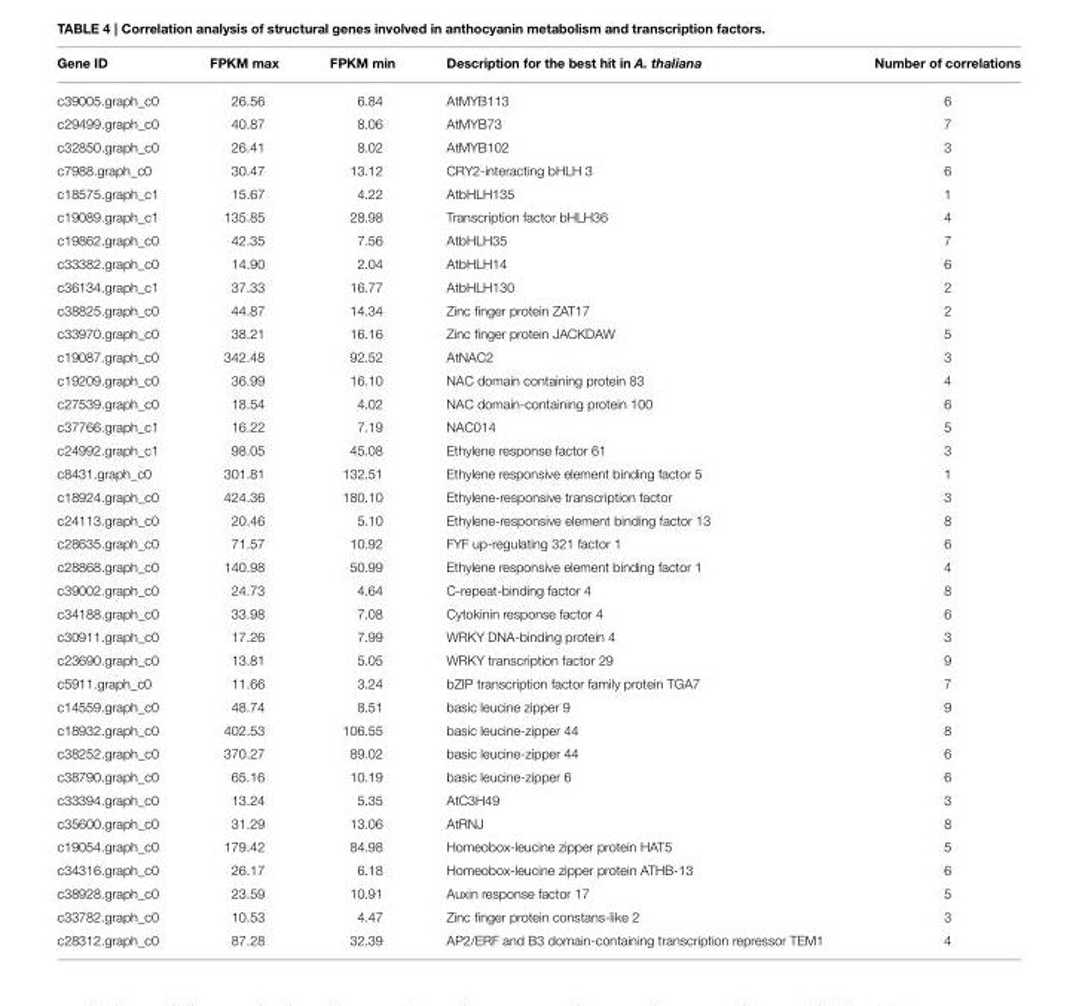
<table><thead><tr><td>Gene ID</td><td>FPKM max</td><td>FPKM min</td><td>Description for the best hit in A. thaliana</td><td>Number of correlations</td></tr></thead><tbody><tr><td>c39005.graph_c0</td><td>26.56</td><td>6.84</td><td>AtMYB113</td><td>6</td></tr><tr><td>c29499.graph_c0</td><td>40.87</td><td>8.06</td><td>AtMYB73</td><td>7</td></tr><tr><td>c32850.graph_c0</td><td>26.41</td><td>8.02</td><td>AtMYB102</td><td>3</td></tr><tr><td>c7988.graph_c0</td><td>30.47</td><td>13.12</td><td>CRY2-interacting bHLH 3</td><td>6</td></tr><tr><td>c18575.graph_c1</td><td>15.67</td><td>4.22</td><td>AtbHLH135</td><td>1</td></tr><tr><td>c19089.graph_c1</td><td>135.85</td><td>28.98</td><td>Transcription factor bHLH36</td><td>4</td></tr><tr><td>c19862.graph_c0</td><td>42.35</td><td>7.56</td><td>AtbHLH35</td><td>7</td></tr><tr><td>c33382.graph_c0</td><td>14.90</td><td>2.04</td><td>AtbHLH14</td><td>6</td></tr><tr><td>c36134.graph_c1</td><td>37.33</td><td>16.77</td><td>AtbHLH130</td><td>2</td></tr><tr><td>c38825.graph_c0</td><td>44.87</td><td>14.34</td><td>Zinc finger protein ZAT17</td><td>2</td></tr><tr><td>c33970.graph_c0</td><td>38.21</td><td>16.16</td><td>Zinc finger protein JACKDAW</td><td>5</td></tr><tr><td>c19087.graph_c0</td><td>342.48</td><td>92.52</td><td>AtNAC2</td><td>3</td></tr><tr><td>c19209.graph_c0</td><td>36.99</td><td>16.10</td><td>NAC domain containing protein 83</td><td>4</td></tr><tr><td>c27539.graph_c0</td><td>18.54</td><td>4.02</td><td>NAC domain-containing protein 100</td><td>6</td></tr><tr><td>c37766.graph_c1</td><td>16.22</td><td>7.19</td><td>NAC014</td><td>5</td></tr><tr><td>c24992.graph_c1</td><td>98.05</td><td>45.08</td><td>Ethylene response factor 61</td><td>3</td></tr><tr><td>c8431.graph_c0</td><td>301.81</td><td>132.51</td><td>Ethylene responsive element binding factor 5</td><td>1</td></tr><tr><td>c18924.graph_c0</td><td>424.36</td><td>180.10</td><td>Ethylene-responsive transcription factor</td><td>3</td></tr><tr><td>c24113.graph_c0</td><td>20.46</td><td>5.10</td><td>Ethylene-responsive element binding factor 13</td><td>8</td></tr><tr><td>c28635.graph_c0</td><td>71.57</td><td>10.92</td><td>FYF up-regulating 321 factor 1</td><td>6</td></tr><tr><td>c28868.graph_c0</td><td>140.98</td><td>50.99</td><td>Ethylene responsive element binding factor 1</td><td>4</td></tr><tr><td>c39002.graph_c0</td><td>24.73</td><td>4.64</td><td>C-repeat-binding factor 4</td><td>8</td></tr><tr><td>c34188.graph_c0</td><td>33.98</td><td>7.08</td><td>Cytokinin response factor 4</td><td>6</td></tr><tr><td>c30911.graph_c0</td><td>17.26</td><td>7.99</td><td>WRKY DNA-binding protein 4</td><td>3</td></tr><tr><td>c23690.graph_c0</td><td>13.81</td><td>5.05</td><td>WRKY transcription factor 29</td><td>9</td></tr><tr><td>c5911.graph_c0</td><td>11.66</td><td>3.24</td><td>bZIP transcription factor family protein TGA7</td><td>7</td></tr><tr><td>c14559.graph_c0</td><td>48.74</td><td>8.51</td><td>basic leucine zipper 9</td><td>9</td></tr><tr><td>c18932.graph_c0</td><td>402.53</td><td>106.55</td><td>basic leucine-zipper 44</td><td>8</td></tr><tr><td>c38252.graph_c0</td><td>370.27</td><td>89.02</td><td>basic leucine-zipper 44</td><td>6</td></tr><tr><td>c38790.graph_c0</td><td>65.16</td><td>10.19</td><td>basic leucine-zipper 6</td><td>6</td></tr><tr><td>c33394.graph_c0</td><td>13.24</td><td>5.35</td><td>AtC3H49</td><td>3</td></tr><tr><td>c35600.graph_c0</td><td>31.29</td><td>13.06</td><td>AtRNJ</td><td>8</td></tr><tr><td>c19054.graph_c0</td><td>179.42</td><td>84.98</td><td>Homeobox-leucine zipper protein HAT5</td><td>5</td></tr><tr><td>c34316.graph_c0</td><td>26.17</td><td>6.18</td><td>Homeobox-leucine zipper protein ATHB-13</td><td>6</td></tr><tr><td>c38928.graph_c0</td><td>23.59</td><td>10.91</td><td>Auxin response factor 17</td><td>5</td></tr><tr><td>c33782.graph_c0</td><td>10.53</td><td>4.47</td><td>Zinc finger protein constans-like 2</td><td>3</td></tr><tr><td>c28312.graph_c0</td><td>87.28</td><td>32.39</td><td>AP2/ERF and B3 domain-containing transcription repressor TEM1</td><td>4</td></tr></tbody></table>